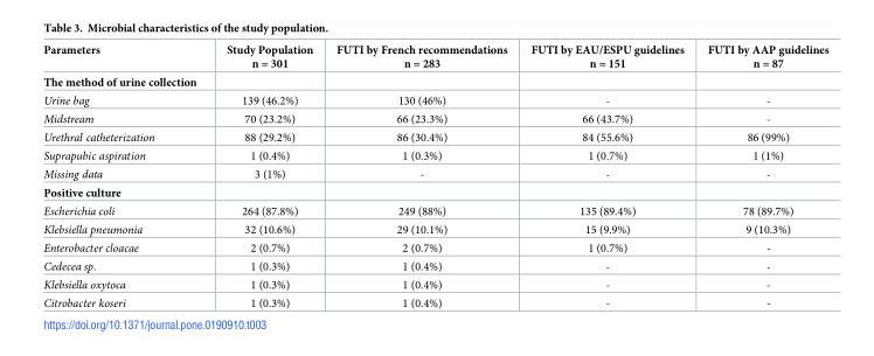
<table><thead><tr><td>Parameters</td><td>Study Population n = 301</td><td>FUTI by French recommendations n = 283</td><td>FUTI by EAU/ESPU guidelines n = 151</td><td>FUTI by AAP guidelines n = 87</td></tr></thead><tbody><tr><td colspan="5">The method of urine collection</td></tr><tr><td>Urine bag</td><td>139 (46.2%)</td><td>130 (46%)</td><td>-</td><td>-</td></tr><tr><td>Midstream</td><td>70 (23.2%)</td><td>66 (23.3%)</td><td>66 (43.7%)</td><td>-</td></tr><tr><td>Urethral catheterization</td><td>88 (29.2%)</td><td>86 (30.4%)</td><td>84 (55.6%)</td><td>86 (99%)</td></tr><tr><td>Suprapubic aspiration</td><td>1 (0.4%)</td><td>1 (0.3%)</td><td>1 (0.7%)</td><td>1 (1%)</td></tr><tr><td>Missing data</td><td>3 (1%)</td><td>-</td><td>-</td><td>-</td></tr><tr><td colspan="5">Positive culture</td></tr><tr><td>Escherichia coli</td><td>264 (87.8%)</td><td>249 (88%)</td><td>135 (89.4%)</td><td>78 (89.7%)</td></tr><tr><td>Klebsiella pneumonia</td><td>32 (10.6%)</td><td>29 (10.1%)</td><td>15 (9.9%)</td><td>9 (10.3%)</td></tr><tr><td>Enterobacter cloacae</td><td>2 (0.7%)</td><td>2 (0.7%)</td><td>1 (0.7%)</td><td>-</td></tr><tr><td>Cedecea sp.</td><td>1 (0.3%)</td><td>1 (0.4%)</td><td>-</td><td>-</td></tr><tr><td>Klebsiella oxytoca</td><td>1 (0.3%)</td><td>1 (0.4%)</td><td>-</td><td>-</td></tr><tr><td>Citrobacter koseri</td><td>1 (0.3%)</td><td>1 (0.4%)</td><td>-</td><td>-</td></tr></tbody></table>